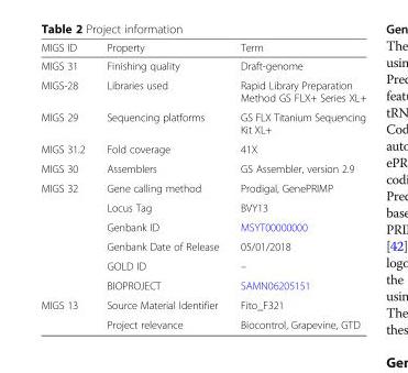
<table><thead><tr><td>MIGS ID</td><td>Property</td><td>Term</td></tr></thead><tbody><tr><td>MIGS 31</td><td>Finishing quality</td><td>Draft-genome</td></tr><tr><td>MIGS-28</td><td>Libraries used</td><td>Rapid Library Preparation Method GS FLX+ Series XL+</td></tr><tr><td>MIGS 29</td><td>Sequencing platforms</td><td>GS FLX Titanium Sequencing Kit XL+</td></tr><tr><td>MIGS 31.2</td><td>Fold coverage</td><td>41X</td></tr><tr><td>MIGS 30</td><td>Assemblers</td><td>GS Assembler, version 2.9</td></tr><tr><td rowspan="6">MIGS 32</td><td>Gene calling method</td><td>Prodigal, GenePRIMP</td></tr><tr><td>Locus Tag</td><td>BVY13</td></tr><tr><td>Genbank ID</td><td>MSYT00000000</td></tr><tr><td>Genbank Date of Release</td><td>05/01/2018</td></tr><tr><td>GOLD ID</td><td>–</td></tr><tr><td>BIOPROJECT</td><td>SAMN06205151</td></tr><tr><td rowspan="2">MIGS 13</td><td>Source Material Identifier</td><td>Fito_F321</td></tr><tr><td>Project relevance</td><td>Biocontrol, Grapevine, GTD</td></tr></tbody></table>